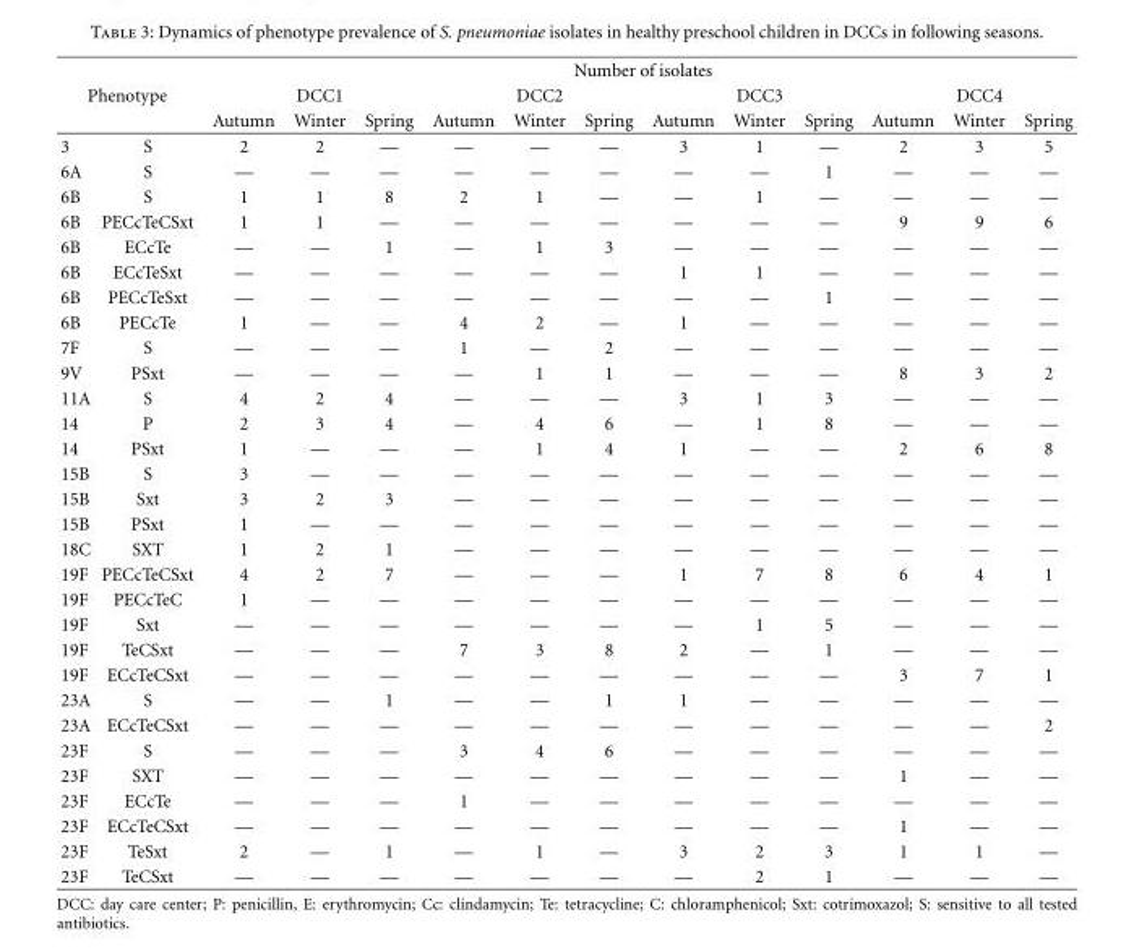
<table><thead><tr><td></td><td></td><td colspan="12">Number of isolates</td></tr><tr><td colspan="2">Phenotype</td><td rowspan="2">Autumn</td><td rowspan="2">DCC1 Winter</td><td rowspan="2">Spring</td><td rowspan="2">Autumn</td><td rowspan="2">DCC2 Winter</td><td rowspan="2">Spring</td><td rowspan="2">Autumn</td><td rowspan="2">DCC3 Winter</td><td rowspan="2">Spring</td><td rowspan="2">Autumn</td><td rowspan="2">DCC4 Winter</td><td rowspan="2">Spring</td></tr><tr><td></td><td></td></tr></thead><tbody><tr><td>3</td><td>S</td><td>2</td><td>2</td><td>—</td><td>—</td><td>—</td><td>—</td><td>3</td><td>1</td><td>—</td><td>2</td><td>3</td><td>5</td></tr><tr><td>6A</td><td>S</td><td>—</td><td>—</td><td>—</td><td>—</td><td>—</td><td>—</td><td>—</td><td>—</td><td>1</td><td>—</td><td>—</td><td>—</td></tr><tr><td>6B</td><td>S</td><td>1</td><td>1</td><td>8</td><td>2</td><td>1</td><td>—</td><td>—</td><td>1</td><td>—</td><td>—</td><td>—</td><td>—</td></tr><tr><td>6B</td><td>PECcTeCSxt</td><td>1</td><td>1</td><td>—</td><td>—</td><td>—</td><td>—</td><td>—</td><td>—</td><td>—</td><td>9</td><td>9</td><td>6</td></tr><tr><td>6B</td><td>ECcTe</td><td>—</td><td>—</td><td>1</td><td>—</td><td>1</td><td>3</td><td>—</td><td>—</td><td>—</td><td>—</td><td>—</td><td>—</td></tr><tr><td>6B</td><td>ECcTeSxt</td><td>—</td><td>—</td><td>—</td><td>—</td><td>—</td><td>—</td><td>1</td><td>1</td><td>—</td><td>—</td><td>—</td><td>—</td></tr><tr><td>6B</td><td>PECcTeSxt</td><td>—</td><td>—</td><td>—</td><td>—</td><td>—</td><td>—</td><td>—</td><td>—</td><td>1</td><td>—</td><td>—</td><td>—</td></tr><tr><td>6B</td><td>PECcTe</td><td>1</td><td>—</td><td>—</td><td>4</td><td>2</td><td>—</td><td>1</td><td>—</td><td>—</td><td>—</td><td>—</td><td>—</td></tr><tr><td>7F</td><td>S</td><td>—</td><td>—</td><td>—</td><td>1</td><td>—</td><td>2</td><td>—</td><td>—</td><td>—</td><td>—</td><td>—</td><td>—</td></tr><tr><td>9V</td><td>PSxt</td><td>—</td><td>—</td><td>—</td><td>—</td><td>1</td><td>1</td><td>—</td><td>—</td><td>—</td><td>8</td><td>3</td><td>2</td></tr><tr><td>11A</td><td>S</td><td>4</td><td>2</td><td>4</td><td>—</td><td>—</td><td>—</td><td>3</td><td>1</td><td>3</td><td>—</td><td>—</td><td>—</td></tr><tr><td>14</td><td>P</td><td>2</td><td>3</td><td>4</td><td>—</td><td>4</td><td>6</td><td>—</td><td>1</td><td>8</td><td>—</td><td>—</td><td>—</td></tr><tr><td>14</td><td>PSxt</td><td>1</td><td>—</td><td>—</td><td>—</td><td>1</td><td>4</td><td>1</td><td>—</td><td>—</td><td>2</td><td>6</td><td>8</td></tr><tr><td>15B</td><td>S</td><td>3</td><td>—</td><td>—</td><td>—</td><td>—</td><td>—</td><td>—</td><td>—</td><td>—</td><td>—</td><td>—</td><td>—</td></tr><tr><td>15B</td><td>Sxt</td><td>3</td><td>2</td><td>3</td><td>—</td><td>—</td><td>—</td><td>—</td><td>—</td><td>—</td><td>—</td><td>—</td><td>—</td></tr><tr><td>15B</td><td>PSxt</td><td>1</td><td>—</td><td>—</td><td>—</td><td>—</td><td>—</td><td>—</td><td>—</td><td>—</td><td>—</td><td>—</td><td>—</td></tr><tr><td>18C</td><td>SXT</td><td>1</td><td>2</td><td>1</td><td>—</td><td>—</td><td>—</td><td>—</td><td>—</td><td>—</td><td>—</td><td>—</td><td>—</td></tr><tr><td>19F</td><td>PECcTeCSxt</td><td>4</td><td>2</td><td>7</td><td>—</td><td>—</td><td>—</td><td>1</td><td>7</td><td>8</td><td>6</td><td>4</td><td>1</td></tr><tr><td>19F</td><td>PECcTeC</td><td>1</td><td>—</td><td>—</td><td>—</td><td>—</td><td>—</td><td>—</td><td>—</td><td>—</td><td>—</td><td>—</td><td>—</td></tr><tr><td>19F</td><td>Sxt</td><td>—</td><td>—</td><td>—</td><td>—</td><td>—</td><td>—</td><td>—</td><td>1</td><td>5</td><td>—</td><td>—</td><td>—</td></tr><tr><td>19F</td><td>TeCSxt</td><td>—</td><td>—</td><td>—</td><td>7</td><td>3</td><td>8</td><td>2</td><td>—</td><td>1</td><td>—</td><td>—</td><td>—</td></tr><tr><td>19F</td><td>ECcTeCSxt</td><td>—</td><td>—</td><td>—</td><td>—</td><td>—</td><td>—</td><td>—</td><td>—</td><td>—</td><td>3</td><td>7</td><td>1</td></tr><tr><td>23A</td><td>S</td><td>—</td><td>—</td><td>1</td><td>—</td><td>—</td><td>1</td><td>1</td><td>—</td><td>—</td><td>—</td><td>—</td><td>—</td></tr><tr><td>23A</td><td>ECcTeCSxt</td><td>—</td><td>—</td><td>—</td><td>—</td><td>—</td><td>—</td><td>—</td><td>—</td><td>—</td><td>—</td><td>—</td><td>2</td></tr><tr><td>23F</td><td>S</td><td>—</td><td>—</td><td>—</td><td>3</td><td>4</td><td>6</td><td>—</td><td>—</td><td>—</td><td>—</td><td>—</td><td>—</td></tr><tr><td>23F</td><td>SXT</td><td>—</td><td>—</td><td>—</td><td>—</td><td>—</td><td>—</td><td>—</td><td>—</td><td>—</td><td>1</td><td>—</td><td>—</td></tr><tr><td>23F</td><td>ECcTe</td><td>—</td><td>—</td><td>—</td><td>1</td><td>—</td><td>—</td><td>—</td><td>—</td><td>—</td><td>—</td><td>—</td><td>—</td></tr><tr><td>23F</td><td>ECcTeCSxt</td><td>—</td><td>—</td><td>—</td><td>—</td><td>—</td><td>—</td><td>—</td><td>—</td><td>—</td><td>1</td><td>—</td><td>—</td></tr><tr><td>23F</td><td>TeSxt</td><td>2</td><td>—</td><td>1</td><td>—</td><td>1</td><td>—</td><td>3</td><td>2</td><td>3</td><td>1</td><td>1</td><td>—</td></tr><tr><td>23F</td><td>TeCSxt</td><td>—</td><td>—</td><td>—</td><td>—</td><td>—</td><td>—</td><td>—</td><td>2</td><td>1</td><td>—</td><td>—</td><td>—</td></tr></tbody></table>